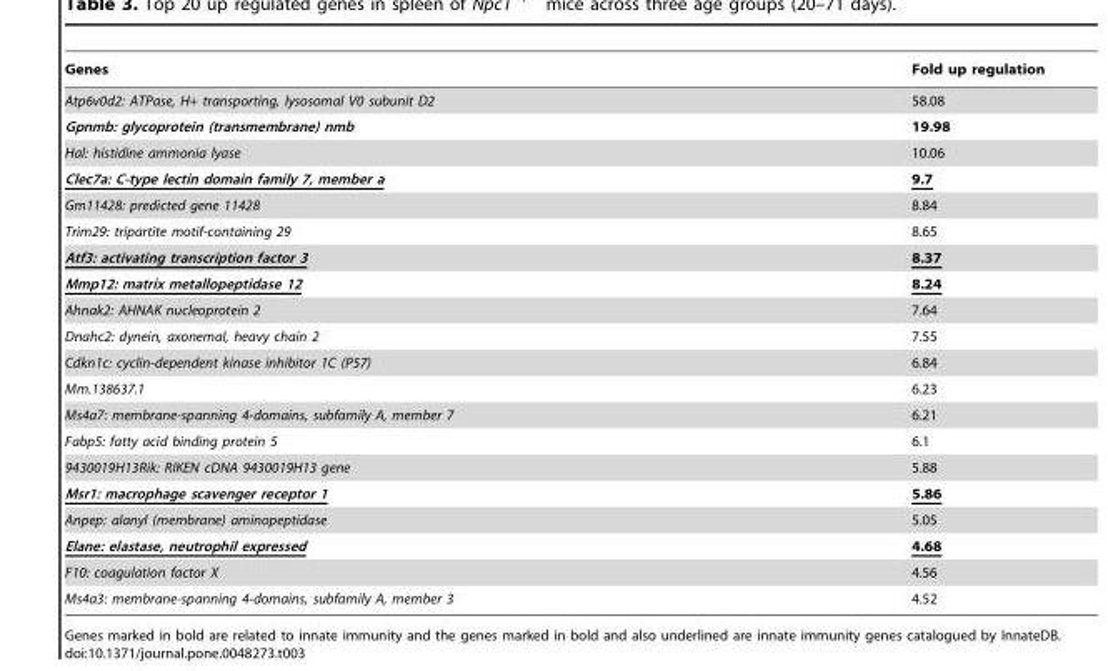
<table><thead><tr><td>Genes</td><td>Fold up regulation</td></tr></thead><tbody><tr><td>Atp6v0d2: ATPase, H+ transporting, lysosomal V0 subunit D2</td><td>58.08</td></tr><tr><td>Gpnmb: glycoprotein (transmembrane) nmb</td><td>19.98</td></tr><tr><td>Hal: histidine ammonia lyase</td><td>10.06</td></tr><tr><td>Clec7a: C-type lectin domain family 7, member a</td><td>9.7</td></tr><tr><td>Gm11428: predicted gene 11428</td><td>8.84</td></tr><tr><td>Trim29: tripartite motif-containing 29</td><td>8.65</td></tr><tr><td>Atf3: activating transcription factor 3</td><td>8.37</td></tr><tr><td>Mmp12: matrix metallopeptidase 12</td><td>8.24</td></tr><tr><td>Ahnak2: AHNAK nucleoprotein 2</td><td>7.64</td></tr><tr><td>Dnahc2: dynein, axonemal, heavy chain 2</td><td>7.55</td></tr><tr><td>Cdkn1c: cyclin-dependent kinase inhibitor 1C (P57)</td><td>6.84</td></tr><tr><td>Mm.138637.1</td><td>6.23</td></tr><tr><td>Ms4a7: membrane-spanning 4-domains, subfamily A, member 7</td><td>6.21</td></tr><tr><td>Fabp5: fatty acid binding protein 5</td><td>6.1</td></tr><tr><td>9430019H13Rik: RIKEN cDNA 9430019H13 gene</td><td>5.88</td></tr><tr><td>Msr1: macrophage scavenger receptor 1</td><td>5.86</td></tr><tr><td>Anpep: alanyl (membrane) aminopeptidase</td><td>5.05</td></tr><tr><td>Elane: elastase, neutrophil expressed</td><td>4.68</td></tr><tr><td>F10: coagulation factor X</td><td>4.56</td></tr><tr><td>Ms4a3: membrane-spanning 4-domains, subfamily A, member 3</td><td>4.52</td></tr></tbody></table>